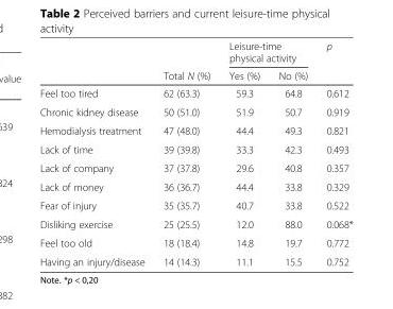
<table><thead><tr><td rowspan="2"></td><td rowspan="2">Total N (%)</td><td colspan="2">Leisure-time physical activity</td><td rowspan="2">p</td></tr><tr><td>Yes (%)</td><td>No (%)</td></tr></thead><tbody><tr><td>Feel too tired</td><td>62 (63.3)</td><td>59.3</td><td>64.8</td><td>0.612</td></tr><tr><td>Chronic kidney disease</td><td>50 (51.0)</td><td>51.9</td><td>50.7</td><td>0.919</td></tr><tr><td>Hemodialysis treatment</td><td>47 (48.0)</td><td>44.4</td><td>49.3</td><td>0.821</td></tr><tr><td>Lack of time</td><td>39 (39.8)</td><td>33.3</td><td>42.3</td><td>0.493</td></tr><tr><td>Lack of company</td><td>37 (37.8)</td><td>29.6</td><td>40.8</td><td>0.357</td></tr><tr><td>Lack of money</td><td>36 (36.7)</td><td>44.4</td><td>33.8</td><td>0.329</td></tr><tr><td>Fear of injury</td><td>35 (35.7)</td><td>40.7</td><td>33.8</td><td>0.522</td></tr><tr><td>Disliking exercise</td><td>25 (25.5)</td><td>12.0</td><td>88.0</td><td>0.068*</td></tr><tr><td>Feel too old</td><td>18 (18.4)</td><td>14.8</td><td>19.7</td><td>0.772</td></tr><tr><td>Having an injury/disease</td><td>14 (14.3)</td><td>11.1</td><td>15.5</td><td>0.752</td></tr></tbody></table>